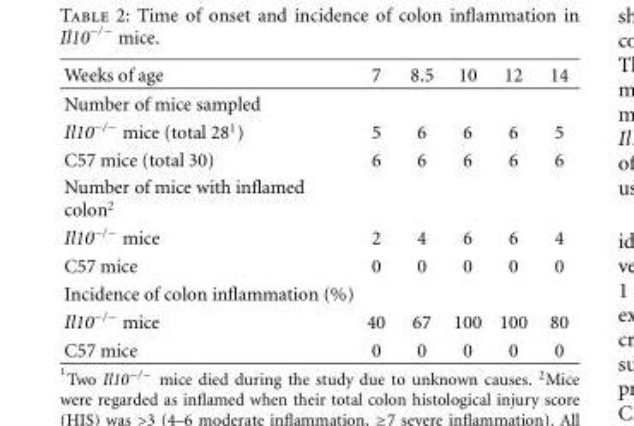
<table><thead><tr><td>Weeks of age</td><td>7</td><td>8.5</td><td>10</td><td>12</td><td>14</td></tr></thead><tbody><tr><td colspan="6">Number of mice sampled</td></tr><tr><td>Il10<sup>−/−</sup> mice (total 28<sup>1</sup>)</td><td>5</td><td>6</td><td>6</td><td>6</td><td>5</td></tr><tr><td>C57 mice (total 30)</td><td>6</td><td>6</td><td>6</td><td>6</td><td>6</td></tr><tr><td colspan="6">Number of mice with inflamed colon<sup>2</sup></td></tr><tr><td>Il10<sup>−/−</sup> mice</td><td>2</td><td>4</td><td>6</td><td>6</td><td>4</td></tr><tr><td>C57 mice</td><td>0</td><td>0</td><td>0</td><td>0</td><td>0</td></tr><tr><td colspan="6">Incidence of colon inflammation (%)</td></tr><tr><td>Il10<sup>−/−</sup> mice</td><td>40</td><td>67</td><td>100</td><td>100</td><td>80</td></tr><tr><td>C57 mice</td><td>0</td><td>0</td><td>0</td><td>0</td><td>0</td></tr></tbody></table>